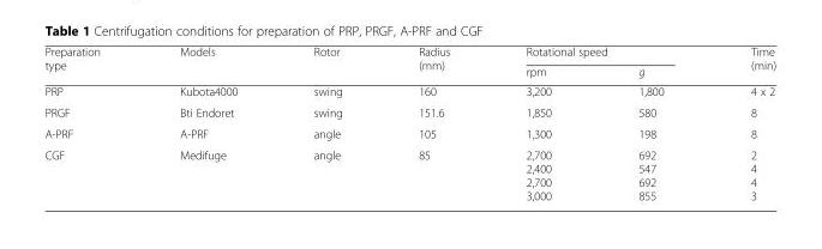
<table><thead><tr><td rowspan="2">Preparation type</td><td rowspan="2">Models</td><td rowspan="2">Rotor</td><td rowspan="2">Radius (mm)</td><td colspan="2">Rotational speed</td><td rowspan="2">Time (min)</td></tr><tr><td>rpm</td><td>g</td></tr></thead><tbody><tr><td>PRP</td><td>Kubota4000</td><td>swing</td><td>160</td><td>3,200</td><td>1,800</td><td>4 x 2</td></tr><tr><td>PRGF</td><td>Bti Endoret</td><td>swing</td><td>151.6</td><td>1,850</td><td>580</td><td>8</td></tr><tr><td>A-PRF</td><td>A-PRF</td><td>angle</td><td>105</td><td>1,300</td><td>198</td><td>8</td></tr><tr><td>CGF</td><td>Medifuge</td><td>angle</td><td>85</td><td>2,700 2,400 2,700 3,000</td><td>692 547 692 855</td><td>2 4 4 3</td></tr></tbody></table>